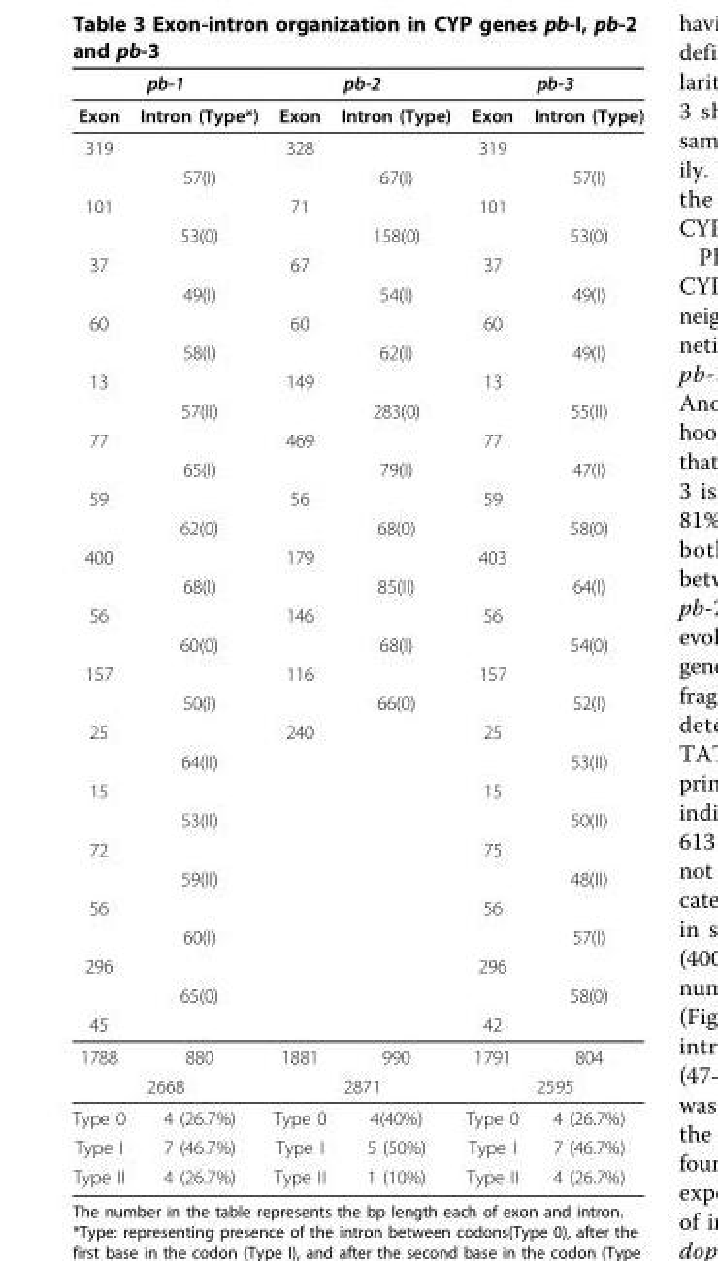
<table><thead><tr><td colspan="2">pb-1</td><td colspan="2">pb-2</td><td colspan="2">pb-3</td></tr><tr><td>Exon</td><td>Intron (Type*)</td><td>Exon</td><td>Intron (Type)</td><td>Exon</td><td>Intron (Type)</td></tr></thead><tbody><tr><td rowspan="2">319</td><td></td><td>328</td><td></td><td>319</td><td></td></tr><tr><td>57(I)</td><td></td><td>67(I)</td><td></td><td>57(I)</td></tr><tr><td rowspan="2">101</td><td></td><td>71</td><td></td><td>101</td><td></td></tr><tr><td>53(0)</td><td></td><td>158(0)</td><td></td><td>53(0)</td></tr><tr><td rowspan="2">37</td><td></td><td>67</td><td></td><td>37</td><td></td></tr><tr><td>49(I)</td><td></td><td>54(I)</td><td></td><td>49(I)</td></tr><tr><td rowspan="2">60</td><td></td><td>60</td><td></td><td>60</td><td></td></tr><tr><td>58(I)</td><td></td><td>62(I)</td><td></td><td>49(I)</td></tr><tr><td rowspan="2">13</td><td></td><td>149</td><td></td><td>13</td><td></td></tr><tr><td>57(II)</td><td></td><td>283(0)</td><td></td><td>55(II)</td></tr><tr><td rowspan="2">77</td><td></td><td>469</td><td></td><td>77</td><td></td></tr><tr><td>65(I)</td><td></td><td>79(I)</td><td></td><td>47(I)</td></tr><tr><td rowspan="2">59</td><td></td><td>56</td><td></td><td>59</td><td></td></tr><tr><td>62(0)</td><td></td><td>68(0)</td><td></td><td>58(0)</td></tr><tr><td rowspan="2">400</td><td></td><td>179</td><td></td><td>403</td><td></td></tr><tr><td>68(I)</td><td></td><td>85(II)</td><td></td><td>64(I)</td></tr><tr><td rowspan="2">56</td><td></td><td>146</td><td></td><td>56</td><td></td></tr><tr><td>60(0)</td><td></td><td>68(I)</td><td></td><td>54(0)</td></tr><tr><td rowspan="2">157</td><td></td><td>116</td><td></td><td>157</td><td></td></tr><tr><td>50(I)</td><td></td><td>66(0)</td><td></td><td>52(I)</td></tr><tr><td rowspan="2">25</td><td></td><td>240</td><td></td><td>25</td><td></td></tr><tr><td>64(II)</td><td></td><td></td><td></td><td>53(II)</td></tr><tr><td rowspan="2">15</td><td></td><td></td><td></td><td>15</td><td></td></tr><tr><td>53(II)</td><td></td><td></td><td></td><td>50(II)</td></tr><tr><td rowspan="2">72</td><td></td><td></td><td></td><td>75</td><td></td></tr><tr><td>59(II)</td><td></td><td></td><td></td><td>48(II)</td></tr><tr><td rowspan="2">56</td><td></td><td></td><td></td><td>56</td><td></td></tr><tr><td>60(I)</td><td></td><td></td><td></td><td>57(I)</td></tr><tr><td rowspan="2">296</td><td></td><td></td><td></td><td>296</td><td></td></tr><tr><td>65(0)</td><td></td><td></td><td></td><td>58(0)</td></tr><tr><td>45</td><td></td><td></td><td></td><td>42</td><td></td></tr><tr><td>1788</td><td>880</td><td>1881</td><td>990</td><td>1791</td><td>804</td></tr><tr><td colspan="2">2668</td><td colspan="2">2871</td><td colspan="2">2595</td></tr><tr><td>Type 0</td><td>4 (26.7%)</td><td>Type 0</td><td>4(40%)</td><td>Type 0</td><td>4 (26.7%)</td></tr><tr><td>Type I</td><td>7 (46.7%)</td><td>Type I</td><td>5 (50%)</td><td>Type I</td><td>7 (46.7%)</td></tr><tr><td>Type II</td><td>4 (26.7%)</td><td>Type II</td><td>1 (10%)</td><td>Type II</td><td>4 (26.7%)</td></tr></tbody></table>